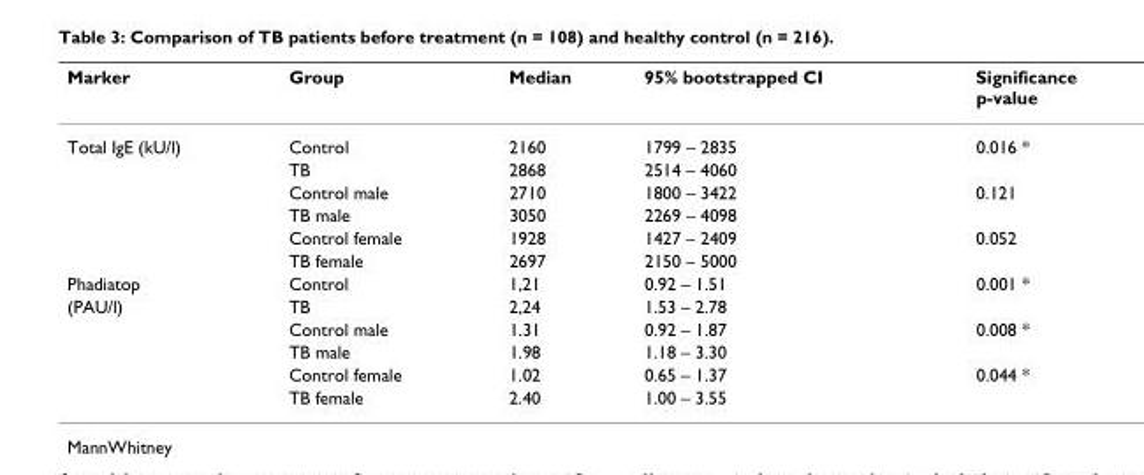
<table><thead><tr><td>Marker</td><td>Group</td><td>Median</td><td>95% bootstrapped CI</td><td>Significance p-value</td></tr></thead><tbody><tr><td rowspan="6">Total IgE (kU/l)</td><td>Control</td><td>2160</td><td>1799 – 2835</td><td>0.016 *</td></tr><tr><td>TB</td><td>2868</td><td>2514 – 4060</td><td></td></tr><tr><td>Control male</td><td>2710</td><td>1800 – 3422</td><td>0.121</td></tr><tr><td>TB male</td><td>3050</td><td>2269 – 4098</td><td></td></tr><tr><td>Control female</td><td>1928</td><td>1427 – 2409</td><td>0.052</td></tr><tr><td>TB female</td><td>2697</td><td>2150 – 5000</td><td></td></tr><tr><td>Phadiatop</td><td>Control</td><td>1,21</td><td>0.92 – 1.51</td><td>0.001 *</td></tr><tr><td rowspan="5">(PAU/l)</td><td>TB</td><td>2,24</td><td>1.53 – 2.78</td><td></td></tr><tr><td>Control male</td><td>1.31</td><td>0.92 – 1.87</td><td>0.008 *</td></tr><tr><td>TB male</td><td>1.98</td><td>1.18 – 3.30</td><td></td></tr><tr><td>Control female</td><td>1.02</td><td>0.65 – 1.37</td><td>0.044 *</td></tr><tr><td>TB female</td><td>2.40</td><td>1.00 – 3.55</td><td></td></tr></tbody></table>